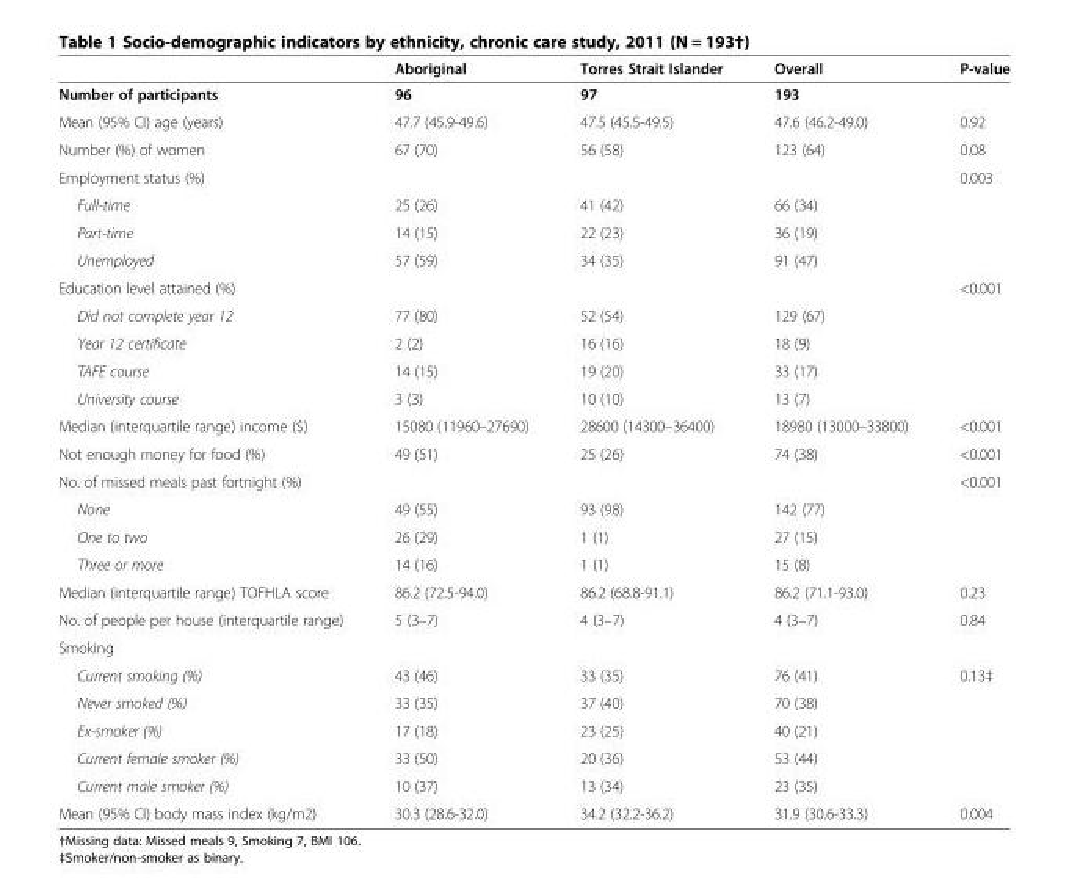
<table><thead><tr><td></td><td>Aboriginal</td><td>Torres Strait Islander</td><td>Overall</td><td>P-value</td></tr></thead><tbody><tr><td>Number of participants</td><td>96</td><td>97</td><td>193</td><td></td></tr><tr><td>Mean (95% CI) age (years)</td><td>47.7 (45.9-49.6)</td><td>47.5 (45.5-49.5)</td><td>47.6 (46.2-49.0)</td><td>0.92</td></tr><tr><td>Number (%) of women</td><td>67 (70)</td><td>56 (58)</td><td>123 (64)</td><td>0.08</td></tr><tr><td>Employment status (%)</td><td></td><td></td><td></td><td>0.003</td></tr><tr><td>Full-time</td><td>25 (26)</td><td>41 (42)</td><td>66 (34)</td><td></td></tr><tr><td>Part-time</td><td>14 (15)</td><td>22 (23)</td><td>36 (19)</td><td></td></tr><tr><td>Unemployed</td><td>57 (59)</td><td>34 (35)</td><td>91 (47)</td><td></td></tr><tr><td>Education level attained (%)</td><td></td><td></td><td></td><td>&lt;0.001</td></tr><tr><td>Did not complete year 12</td><td>77 (80)</td><td>52 (54)</td><td>129 (67)</td><td></td></tr><tr><td>Year 12 certificate</td><td>2 (2)</td><td>16 (16)</td><td>18 (9)</td><td></td></tr><tr><td>TAFE course</td><td>14 (15)</td><td>19 (20)</td><td>33 (17)</td><td></td></tr><tr><td>University course</td><td>3 (3)</td><td>10 (10)</td><td>13 (7)</td><td></td></tr><tr><td>Median (interquartile range) income ($)</td><td>15080 (11960–27690)</td><td>28600 (14300–36400)</td><td>18980 (13000–33800)</td><td>&lt;0.001</td></tr><tr><td>Not enough money for food (%)</td><td>49 (51)</td><td>25 (26)</td><td>74 (38)</td><td>&lt;0.001</td></tr><tr><td>No. of missed meals past fortnight (%)</td><td></td><td></td><td></td><td>&lt;0.001</td></tr><tr><td>None</td><td>49 (55)</td><td>93 (98)</td><td>142 (77)</td><td></td></tr><tr><td>One to two</td><td>26 (29)</td><td>1 (1)</td><td>27 (15)</td><td></td></tr><tr><td>Three or more</td><td>14 (16)</td><td>1 (1)</td><td>15 (8)</td><td></td></tr><tr><td>Median (interquartile range) TOFHLA score</td><td>86.2 (72.5-94.0)</td><td>86.2 (68.8-91.1)</td><td>86.2 (71.1-93.0)</td><td>0.23</td></tr><tr><td>No. of people per house (interquartile range)</td><td>5 (3–7)</td><td>4 (3–7)</td><td>4 (3–7)</td><td>0.84</td></tr><tr><td colspan="5">Smoking</td></tr><tr><td>Current smoking (%)</td><td>43 (46)</td><td>33 (35)</td><td>76 (41)</td><td>0.13‡</td></tr><tr><td>Never smoked (%)</td><td>33 (35)</td><td>37 (40)</td><td>70 (38)</td><td></td></tr><tr><td>Ex-smoker (%)</td><td>17 (18)</td><td>23 (25)</td><td>40 (21)</td><td></td></tr><tr><td>Current female smoker (%)</td><td>33 (50)</td><td>20 (36)</td><td>53 (44)</td><td></td></tr><tr><td>Current male smoker (%)</td><td>10 (37)</td><td>13 (34)</td><td>23 (35)</td><td></td></tr><tr><td>Mean (95% CI) body mass index (kg/m2)</td><td>30.3 (28.6-32.0)</td><td>34.2 (32.2-36.2)</td><td>31.9 (30.6-33.3)</td><td>0.004</td></tr></tbody></table>